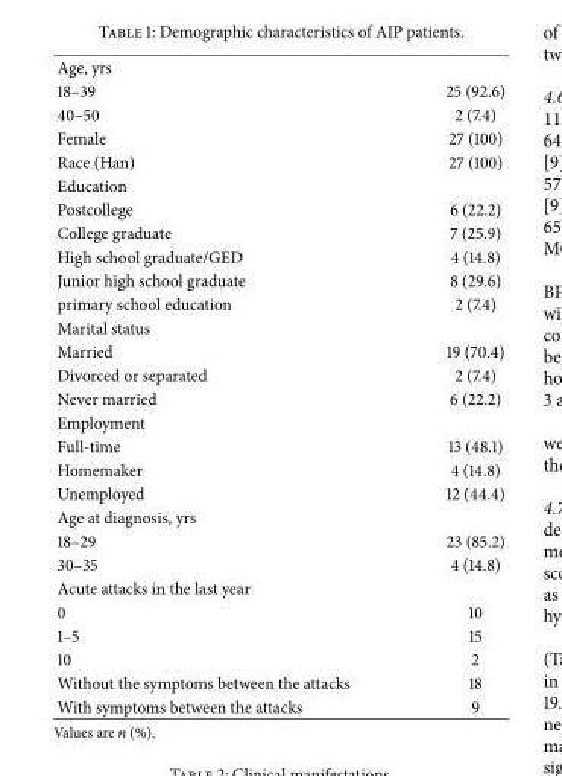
<table><tbody><tr><td colspan="2">Age, yrs</td></tr><tr><td>18–39</td><td>25 (92.6)</td></tr><tr><td>40–50</td><td>2 (7.4)</td></tr><tr><td>Female</td><td>27 (100)</td></tr><tr><td>Race (Han)</td><td>27 (100)</td></tr><tr><td colspan="2">Education</td></tr><tr><td>Postcollege</td><td>6 (22.2)</td></tr><tr><td>College graduate</td><td>7 (25.9)</td></tr><tr><td>High school graduate/GED</td><td>4 (14.8)</td></tr><tr><td>Junior high school graduate</td><td>8 (29.6)</td></tr><tr><td>primary school education</td><td>2 (7.4)</td></tr><tr><td colspan="2">Marital status</td></tr><tr><td>Married</td><td>19 (70.4)</td></tr><tr><td>Divorced or separated</td><td>2 (7.4)</td></tr><tr><td>Never married</td><td>6 (22.2)</td></tr><tr><td colspan="2">Employment</td></tr><tr><td>Full-time</td><td>13 (48.1)</td></tr><tr><td>Homemaker</td><td>4 (14.8)</td></tr><tr><td>Unemployed</td><td>12 (44.4)</td></tr><tr><td colspan="2">Age at diagnosis, yrs</td></tr><tr><td>18–29</td><td>23 (85.2)</td></tr><tr><td>30–35</td><td>4 (14.8)</td></tr><tr><td colspan="2">Acute attacks in the last year</td></tr><tr><td>0</td><td>10</td></tr><tr><td>1–5</td><td>15</td></tr><tr><td>10</td><td>2</td></tr><tr><td>Without the symptoms between the attacks</td><td>18</td></tr><tr><td>With symptoms between the attacks</td><td>9</td></tr></tbody></table>